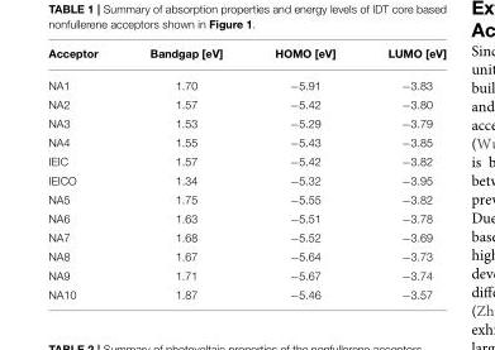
<table><thead><tr><td>Acceptor</td><td>Bandgap [eV]</td><td>HOMO [eV]</td><td>LUMO [eV]</td></tr></thead><tbody><tr><td>NA1</td><td>1.70</td><td>−5.91</td><td>−3.83</td></tr><tr><td>NA2</td><td>1.57</td><td>−5.42</td><td>−3.80</td></tr><tr><td>NA3</td><td>1.53</td><td>−5.29</td><td>−3.79</td></tr><tr><td>NA4</td><td>1.55</td><td>−5.43</td><td>−3.85</td></tr><tr><td>IEIC</td><td>1.57</td><td>−5.42</td><td>−3.82</td></tr><tr><td>IEICO</td><td>1.34</td><td>−5.32</td><td>−3.95</td></tr><tr><td>NA5</td><td>1.75</td><td>−5.55</td><td>−3.82</td></tr><tr><td>NA6</td><td>1.63</td><td>−5.51</td><td>−3.78</td></tr><tr><td>NA7</td><td>1.68</td><td>−5.52</td><td>−3.69</td></tr><tr><td>NA8</td><td>1.67</td><td>−5.64</td><td>−3.73</td></tr><tr><td>NA9</td><td>1.71</td><td>−5.67</td><td>−3.74</td></tr><tr><td>NA10</td><td>1.87</td><td>−5.46</td><td>−3.57</td></tr></tbody></table>